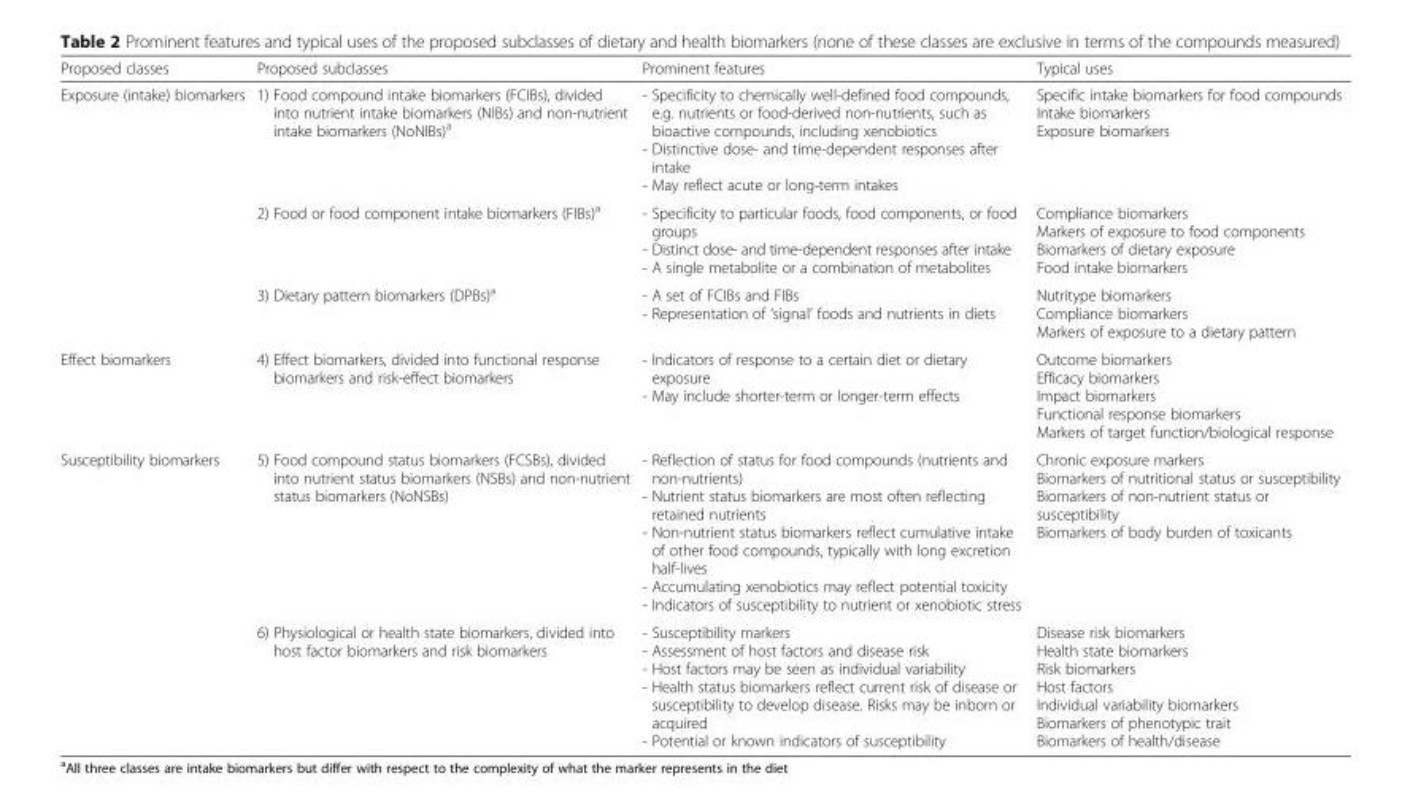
<table><thead><tr><td>Proposed classes</td><td>Proposed subclasses</td><td>Prominent features</td><td>Typical uses</td></tr></thead><tbody><tr><td rowspan="3">Exposure (intake) biomarkers</td><td>1) Food compound intake biomarkers (FCIBs), divided into nutrient intake biomarkers (NIBs) and non-nutrient intake biomarkers (NoNIBs)<sup>a</sup></td><td>- Specificity to chemically well-defined food compounds, e.g. nutrients or food-derived non-nutrients, such as bioactive compounds, including xenobiotics - Distinctive dose- and time-dependent responses after intake - May reflect acute or long-term intakes</td><td>Specific intake biomarkers for food compounds Intake biomarkers Exposure biomarkers</td></tr><tr><td>2) Food or food component intake biomarkers (FIBs)<sup>a</sup></td><td>- Specificity to particular foods, food components, or food groups - Distinct dose- and time-dependent responses after intake - A single metabolite or a combination of metabolites</td><td>Compliance biomarkers Markers of exposure to food components Biomarkers of dietary exposure Food intake biomarkers</td></tr><tr><td>3) Dietary pattern biomarkers (DPBs)<sup>a</sup></td><td>- A set of FCIBs and FIBs - Representation of ‘signal’ foods and nutrients in diets</td><td>Nutritype biomarkers Compliance biomarkers Markers of exposure to a dietary pattern</td></tr><tr><td>Effect biomarkers</td><td>4) Effect biomarkers, divided into functional response biomarkers and risk-effect biomarkers</td><td>- Indicators of response to a certain diet or dietary exposure - May include shorter-term or longer-term effects</td><td>Outcome biomarkers Efficacy biomarkers Impact biomarkers Functional response biomarkers Markers of target function/biological response</td></tr><tr><td rowspan="2">Susceptibility biomarkers</td><td>5) Food compound status biomarkers (FCSBs), divided into nutrient status biomarkers (NSBs) and non-nutrient status biomarkers (NoNSBs)</td><td>- Reflection of status for food compounds (nutrients and non-nutrients) - Nutrient status biomarkers are most often reflecting retained nutrients - Non-nutrient status biomarkers reflect cumulative intake of other food compounds, typically with long excretion half-lives - Accumulating xenobiotics may reflect potential toxicity - Indicators of susceptibility to nutrient or xenobiotic stress</td><td>Chronic exposure markers Biomarkers of nutritional status or susceptibility Biomarkers of non-nutrient status or susceptibility Biomarkers of body burden of toxicants</td></tr><tr><td>6) Physiological or health state biomarkers, divided into host factor biomarkers and risk biomarkers</td><td>- Susceptibility markers - Assessment of host factors and disease risk - Host factors may be seen as individual variability - Health status biomarkers reflect current risk of disease or susceptibility to develop disease. Risks may be inborn or acquired - Potential or known indicators of susceptibility</td><td>Disease risk biomarkers Health state biomarkers Risk biomarkers Host factors Individual variability biomarkers Biomarkers of phenotypic trait Biomarkers of health/disease</td></tr></tbody></table>